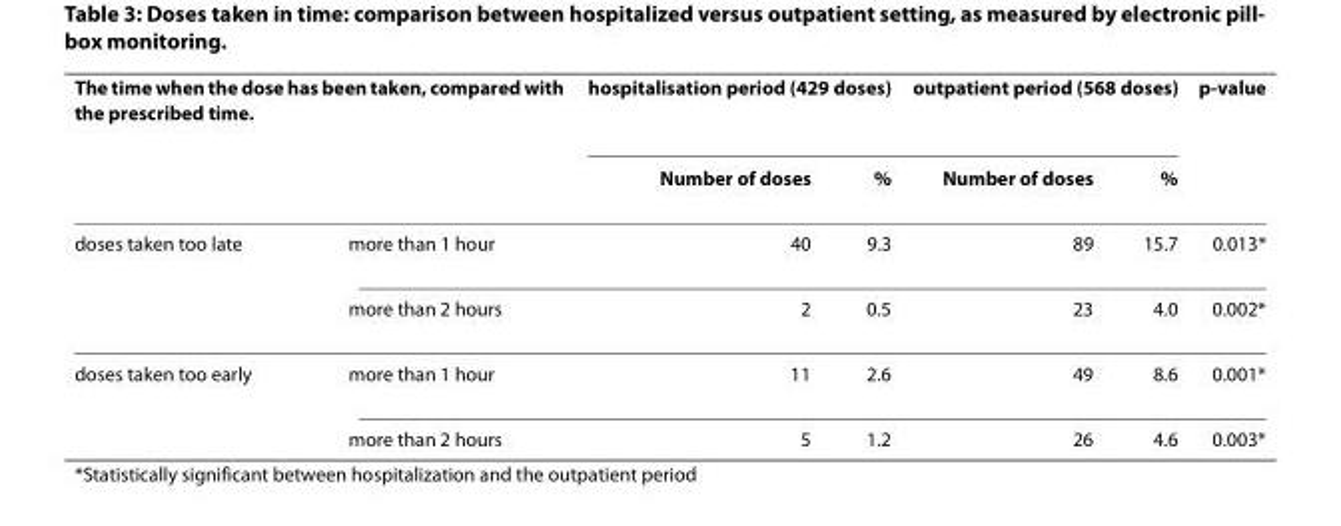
<table><thead><tr><td colspan="2">The time when the dose has been taken, compared with the prescribed time.</td><td colspan="2">hospitalisation period (429 doses)</td><td colspan="2">outpatient period (568 doses)</td><td rowspan="2">p-value</td></tr><tr><td></td><td></td><td>Number of doses</td><td>%</td><td>Number of doses</td><td>%</td></tr></thead><tbody><tr><td rowspan="2">doses taken too late</td><td>more than 1 hour</td><td>40</td><td>9.3</td><td>89</td><td>15.7</td><td>0.013*</td></tr><tr><td>more than 2 hours</td><td>2</td><td>0.5</td><td>23</td><td>4.0</td><td>0.002*</td></tr><tr><td rowspan="2">doses taken too early</td><td>more than 1 hour</td><td>11</td><td>2.6</td><td>49</td><td>8.6</td><td>0.001*</td></tr><tr><td>more than 2 hours</td><td>5</td><td>1.2</td><td>26</td><td>4.6</td><td>0.003*</td></tr></tbody></table>